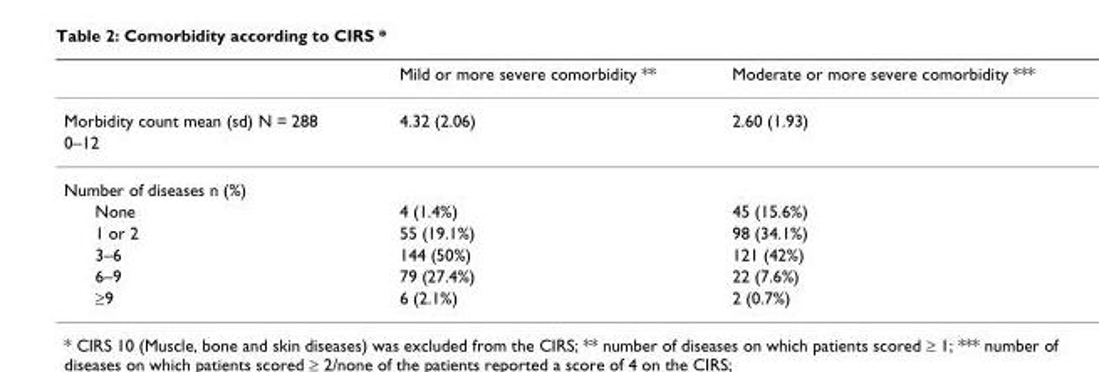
<table><thead><tr><td></td><td>Mild or more severe comorbidity **</td><td>Moderate or more severe comorbidity ***</td></tr></thead><tbody><tr><td>Morbidity count mean (sd) N = 288</td><td>4.32 (2.06)</td><td>2.60 (1.93)</td></tr><tr><td colspan="3">0–12</td></tr><tr><td colspan="3">Number of diseases n (%)</td></tr><tr><td>None</td><td>4 (1.4%)</td><td>45 (15.6%)</td></tr><tr><td>1 or 2</td><td>55 (19.1%)</td><td>98 (34.1%)</td></tr><tr><td>3–6</td><td>144 (50%)</td><td>121 (42%)</td></tr><tr><td>6–9</td><td>79 (27.4%)</td><td>22 (7.6%)</td></tr><tr><td>≥9</td><td>6 (2.1%)</td><td>2 (0.7%)</td></tr></tbody></table>